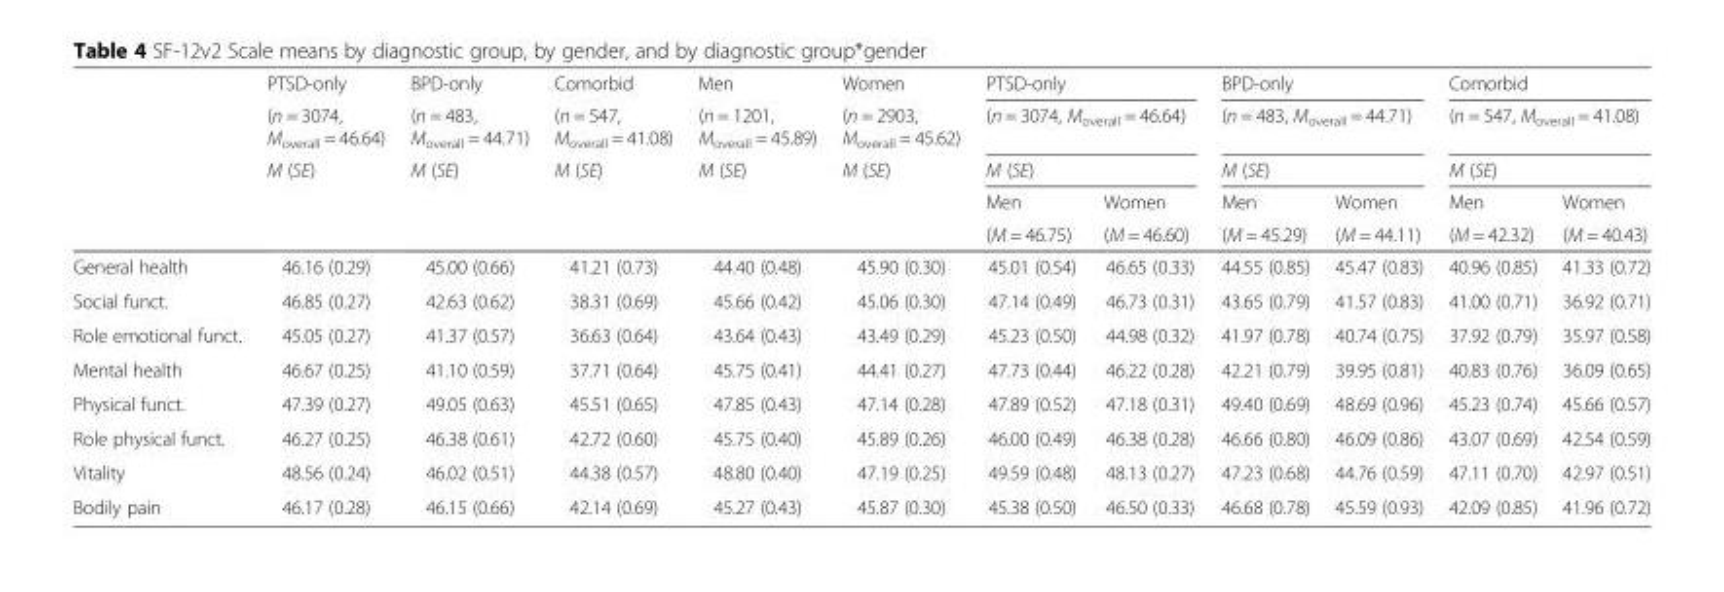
<table><thead><tr><td rowspan="5"></td><td rowspan="5">PTSD-only (n = 3074, M<sub>overall</sub> = 46.64) M (SE)</td><td rowspan="5">BPD-only (n = 483, M<sub>overall</sub> = 44.71) M (SE)</td><td rowspan="5">Comorbid (n = 547, M<sub>overall</sub> = 41.08) M (SE)</td><td rowspan="5">Men (n = 1201, M<sub>overall</sub> = 45.89) M (SE)</td><td rowspan="5">Women (n = 2903, M<sub>overall</sub> = 45.62) M (SE)</td><td rowspan="3" colspan="2">PTSD-only (n = 3074, M<sub>overall</sub> = 46.64) M (SE)</td><td rowspan="3" colspan="2">BPD-only (n = 483, M<sub>overall</sub> = 44.71) M (SE)</td><td rowspan="3" colspan="2">Comorbid (n = 547, M<sub>overall</sub> = 41.08) M (SE)</td></tr><tr></tr><tr></tr><tr><td rowspan="2">Men (M = 46.75)</td><td rowspan="2">Women (M = 46.60)</td><td rowspan="2">Men (M = 45.29)</td><td rowspan="2">Women (M = 44.11)</td><td rowspan="2">Men (M = 42.32)</td><td rowspan="2">Women (M = 40.43)</td></tr><tr></tr></thead><tbody><tr><td>General health</td><td>46.16 (0.29)</td><td>45.00 (0.66)</td><td>41.21 (0.73)</td><td>44.40 (0.48)</td><td>45.90 (0.30)</td><td>45.01 (0.54)</td><td>46.65 (0.33)</td><td>44.55 (0.85)</td><td>45.47 (0.83)</td><td>40.96 (0.85)</td><td>41.33 (0.72)</td></tr><tr><td>Social funct.</td><td>46.85 (0.27)</td><td>42.63 (0.62)</td><td>38.31 (0.69)</td><td>45.66 (0.42)</td><td>45.06 (0.30)</td><td>47.14 (0.49)</td><td>46.73 (0.31)</td><td>43.65 (0.79)</td><td>41.57 (0.83)</td><td>41.00 (0.71)</td><td>36.92 (0.71)</td></tr><tr><td>Role emotional funct.</td><td>45.05 (0.27)</td><td>41.37 (0.57)</td><td>36.63 (0.64)</td><td>43.64 (0.43)</td><td>43.49 (0.29)</td><td>45.23 (0.50)</td><td>44.98 (0.32)</td><td>41.97 (0.78)</td><td>40.74 (0.75)</td><td>37.92 (0.79)</td><td>35.97 (0.58)</td></tr><tr><td>Mental health</td><td>46.67 (0.25)</td><td>41.10 (0.59)</td><td>37.71 (0.64)</td><td>45.75 (0.41)</td><td>44.41 (0.27)</td><td>47.73 (0.44)</td><td>46.22 (0.28)</td><td>42.21 (0.79)</td><td>39.95 (0.81)</td><td>40.83 (0.76)</td><td>36.09 (0.65)</td></tr><tr><td>Physical funct.</td><td>47.39 (0.27)</td><td>49.05 (0.63)</td><td>45.51 (0.65)</td><td>47.85 (0.43)</td><td>47.14 (0.28)</td><td>47.89 (0.52)</td><td>47.18 (0.31)</td><td>49.40 (0.69)</td><td>48.69 (0.96)</td><td>45.23 (0.74)</td><td>45.66 (0.57)</td></tr><tr><td>Role physical funct.</td><td>46.27 (0.25)</td><td>46.38 (0.61)</td><td>42.72 (0.60)</td><td>45.75 (0.40)</td><td>45.89 (0.26)</td><td>46.00 (0.49)</td><td>46.38 (0.28)</td><td>46.66 (0.80)</td><td>46.09 (0.86)</td><td>43.07 (0.69)</td><td>42.54 (0.59)</td></tr><tr><td>Vitality</td><td>48.56 (0.24)</td><td>46.02 (0.51)</td><td>44.38 (0.57)</td><td>48.80 (0.40)</td><td>47.19 (0.25)</td><td>49.59 (0.48)</td><td>48.13 (0.27)</td><td>47.23 (0.68)</td><td>44.76 (0.59)</td><td>47.11 (0.70)</td><td>42.97 (0.51)</td></tr><tr><td>Bodily pain</td><td>46.17 (0.28)</td><td>46.15 (0.66)</td><td>42.14 (0.69)</td><td>45.27 (0.43)</td><td>45.87 (0.30)</td><td>45.38 (0.50)</td><td>46.50 (0.33)</td><td>46.68 (0.78)</td><td>45.59 (0.93)</td><td>42.09 (0.85)</td><td>41.96 (0.72)</td></tr></tbody></table>